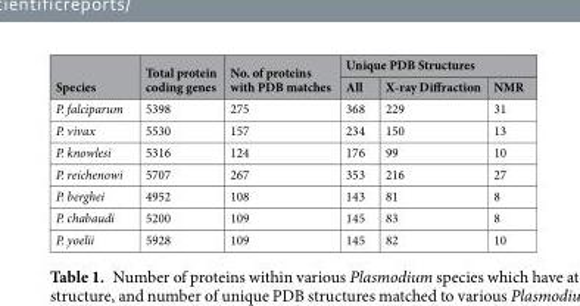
<table><thead><tr><td rowspan="2">Species</td><td rowspan="2">Total protein coding genes</td><td rowspan="2">No. of proteins with PDB matches</td><td colspan="3">Unique PDB Structures</td></tr><tr><td>All</td><td>X-ray Diffraction</td><td>NMR</td></tr></thead><tbody><tr><td>P. falciparum</td><td>5398</td><td>275</td><td>368</td><td>229</td><td>31</td></tr><tr><td>P. vivax</td><td>5530</td><td>157</td><td>234</td><td>150</td><td>13</td></tr><tr><td>P. knowlesi</td><td>5316</td><td>124</td><td>176</td><td>99</td><td>10</td></tr><tr><td>P. reichenowi</td><td>5707</td><td>267</td><td>353</td><td>216</td><td>27</td></tr><tr><td>P. berghei</td><td>4952</td><td>108</td><td>143</td><td>81</td><td>8</td></tr><tr><td>P. chabaudi</td><td>5200</td><td>109</td><td>145</td><td>83</td><td>8</td></tr><tr><td>P. yoelii</td><td>5928</td><td>109</td><td>145</td><td>82</td><td>10</td></tr></tbody></table>